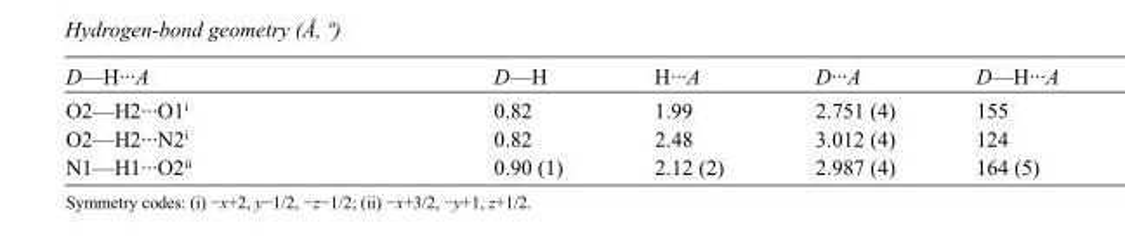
<table><tbody><tr><td>D—H···A</td><td>D—H</td><td>H···A</td><td>D···A</td><td>D—H···A</td></tr><tr><td>O2—H2···O1<sup>i</sup></td><td>0.82</td><td>1.99</td><td>2.751 (4)</td><td>155</td></tr><tr><td>O2—H2···N2<sup>i</sup></td><td>0.82</td><td>2.48</td><td>3.012 (4)</td><td>124</td></tr><tr><td>N1—H1···O2<sup>ii</sup></td><td>0.90 (1)</td><td>2.12 (2)</td><td>2.987 (4)</td><td>164 (5)</td></tr></tbody></table>